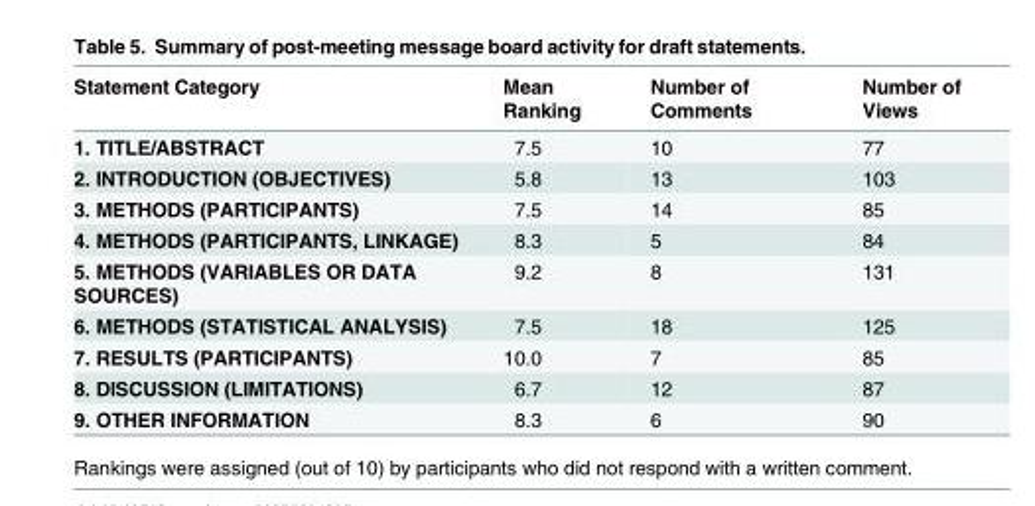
<table><thead><tr><td>Statement Category</td><td>Mean Ranking</td><td>Number of Comments</td><td>Number of Views</td></tr></thead><tbody><tr><td>1. TITLE/ABSTRACT</td><td>7.5</td><td>10</td><td>77</td></tr><tr><td>2. INTRODUCTION (OBJECTIVES)</td><td>5.8</td><td>13</td><td>103</td></tr><tr><td>3. METHODS (PARTICIPANTS)</td><td>7.5</td><td>14</td><td>85</td></tr><tr><td>4. METHODS (PARTICIPANTS, LINKAGE)</td><td>8.3</td><td>5</td><td>84</td></tr><tr><td>5. METHODS (VARIABLES OR DATA SOURCES)</td><td>9.2</td><td>8</td><td>131</td></tr><tr><td>6. METHODS (STATISTICAL ANALYSIS)</td><td>7.5</td><td>18</td><td>125</td></tr><tr><td>7. RESULTS (PARTICIPANTS)</td><td>10.0</td><td>7</td><td>85</td></tr><tr><td>8. DISCUSSION (LIMITATIONS)</td><td>6.7</td><td>12</td><td>87</td></tr><tr><td>9. OTHER INFORMATION</td><td>8.3</td><td>6</td><td>90</td></tr></tbody></table>